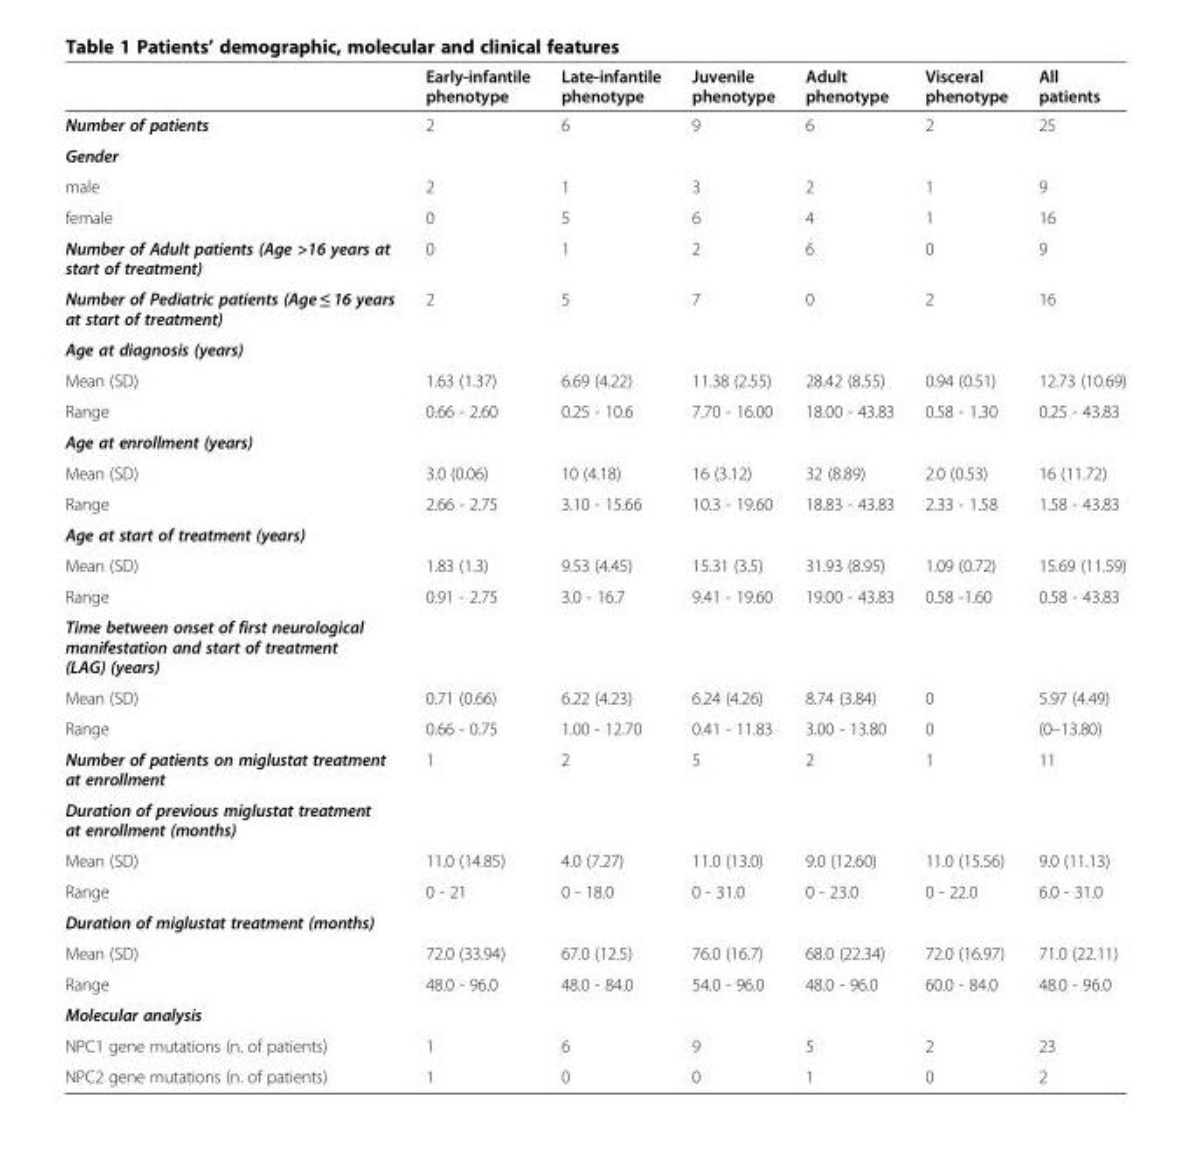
<table><thead><tr><td></td><td>Early-infantile phenotype</td><td>Late-infantile phenotype</td><td>Juvenile phenotype</td><td>Adult phenotype</td><td>Visceral phenotype</td><td>All patients</td></tr></thead><tbody><tr><td>Number of patients</td><td>2</td><td>6</td><td>9</td><td>6</td><td>2</td><td>25</td></tr><tr><td colspan="7">Gender</td></tr><tr><td>male</td><td>2</td><td>1</td><td>3</td><td>2</td><td>1</td><td>9</td></tr><tr><td>female</td><td>0</td><td>5</td><td>6</td><td>4</td><td>1</td><td>16</td></tr><tr><td>Number of Adult patients (Age &gt;16 years at start of treatment)</td><td>0</td><td>1</td><td>2</td><td>6</td><td>0</td><td>9</td></tr><tr><td>Number of Pediatric patients (Age ≤ 16 years at start of treatment)</td><td>2</td><td>5</td><td>7</td><td>0</td><td>2</td><td>16</td></tr><tr><td colspan="7">Age at diagnosis (years)</td></tr><tr><td>Mean (SD)</td><td>1.63 (1.37)</td><td>6.69 (4.22)</td><td>11.38 (2.55)</td><td>28.42 (8.55)</td><td>0.94 (0.51)</td><td>12.73 (10.69)</td></tr><tr><td>Range</td><td>0.66 - 2.60</td><td>0.25 - 10.6</td><td>7.70 - 16.00</td><td>18.00 - 43.83</td><td>0.58 - 1.30</td><td>0.25 - 43.83</td></tr><tr><td colspan="7">Age at enrollment (years)</td></tr><tr><td>Mean (SD)</td><td>3.0 (0.06)</td><td>10 (4.18)</td><td>16 (3.12)</td><td>32 (8.89)</td><td>2.0 (0.53)</td><td>16 (11.72)</td></tr><tr><td>Range</td><td>2.66 - 2.75</td><td>3.10 - 15.66</td><td>10.3 - 19.60</td><td>18.83 - 43.83</td><td>2.33 - 1.58</td><td>1.58 - 43.83</td></tr><tr><td colspan="7">Age at start of treatment (years)</td></tr><tr><td>Mean (SD)</td><td>1.83 (1.3)</td><td>9.53 (4.45)</td><td>15.31 (3.5)</td><td>31.93 (8.95)</td><td>1.09 (0.72)</td><td>15.69 (11.59)</td></tr><tr><td>Range</td><td>0.91 - 2.75</td><td>3.0 - 16.7</td><td>9.41 - 19.60</td><td>19.00 - 43.83</td><td>0.58 -1.60</td><td>0.58 - 43.83</td></tr><tr><td colspan="7">Time between onset of first neurological manifestation and start of treatment (LAG) (years)</td></tr><tr><td>Mean (SD)</td><td>0.71 (0.66)</td><td>6.22 (4.23)</td><td>6.24 (4.26)</td><td>8.74 (3.84)</td><td>0</td><td>5.97 (4.49)</td></tr><tr><td>Range</td><td>0.66 - 0.75</td><td>1.00 - 12.70</td><td>0.41 - 11.83</td><td>3.00 - 13.80</td><td>0</td><td>(0–13.80)</td></tr><tr><td>Number of patients on miglustat treatment at enrollment</td><td>1</td><td>2</td><td>5</td><td>2</td><td>1</td><td>11</td></tr><tr><td colspan="7">Duration of previous miglustat treatment at enrollment (months)</td></tr><tr><td>Mean (SD)</td><td>11.0 (14.85)</td><td>4.0 (7.27)</td><td>11.0 (13.0)</td><td>9.0 (12.60)</td><td>11.0 (15.56)</td><td>9.0 (11.13)</td></tr><tr><td>Range</td><td>0 - 21</td><td>0 - 18.0</td><td>0 - 31.0</td><td>0 - 23.0</td><td>0 - 22.0</td><td>6.0 - 31.0</td></tr><tr><td colspan="7">Duration of miglustat treatment (months)</td></tr><tr><td>Mean (SD)</td><td>72.0 (33.94)</td><td>67.0 (12.5)</td><td>76.0 (16.7)</td><td>68.0 (22.34)</td><td>72.0 (16.97)</td><td>71.0 (22.11)</td></tr><tr><td>Range</td><td>48.0 - 96.0</td><td>48.0 - 84.0</td><td>54.0 - 96.0</td><td>48.0 - 96.0</td><td>60.0 - 84.0</td><td>48.0 - 96.0</td></tr><tr><td colspan="7">Molecular analysis</td></tr><tr><td>NPC1 gene mutations (n. of patients)</td><td>1</td><td>6</td><td>9</td><td>5</td><td>2</td><td>23</td></tr><tr><td>NPC2 gene mutations (n. of patients)</td><td>1</td><td>0</td><td>0</td><td>1</td><td>0</td><td>2</td></tr></tbody></table>